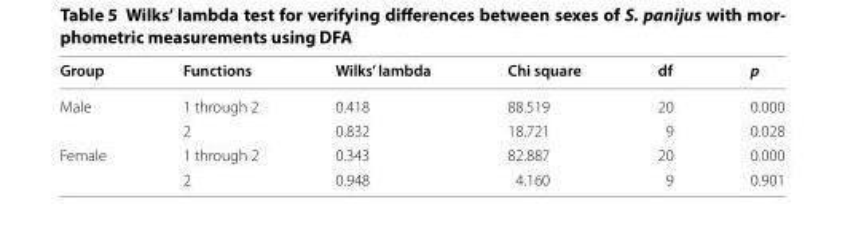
<table><thead><tr><td>Group</td><td>Functions</td><td>Wilks’ lambda</td><td>Chi square</td><td>df</td><td>p</td></tr></thead><tbody><tr><td rowspan="2">Male</td><td>1 through 2</td><td>0.418</td><td>88.519</td><td>20</td><td>0.000</td></tr><tr><td>2</td><td>0.832</td><td>18.721</td><td>9</td><td>0.028</td></tr><tr><td rowspan="2">Female</td><td>1 through 2</td><td>0.343</td><td>82.887</td><td>20</td><td>0.000</td></tr><tr><td>2</td><td>0.948</td><td>4.160</td><td>9</td><td>0.901</td></tr></tbody></table>